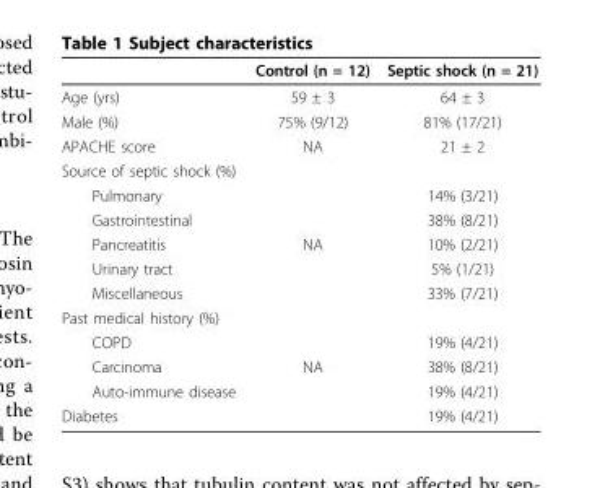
<table><thead><tr><td></td><td>Control (n = 12)</td><td>Septic shock (n = 21)</td></tr></thead><tbody><tr><td>Age (yrs)</td><td>59 ± 3</td><td>64 ± 3</td></tr><tr><td>Male (%)</td><td>75% (9/12)</td><td>81% (17/21)</td></tr><tr><td>APACHE score</td><td>NA</td><td>21 ± 2</td></tr><tr><td colspan="3">Source of septic shock (%)</td></tr><tr><td>Pulmonary</td><td></td><td>14% (3/21)</td></tr><tr><td>Gastrointestinal</td><td></td><td>38% (8/21)</td></tr><tr><td>Pancreatitis</td><td>NA</td><td>10% (2/21)</td></tr><tr><td>Urinary tract</td><td></td><td>5% (1/21)</td></tr><tr><td>Miscellaneous</td><td></td><td>33% (7/21)</td></tr><tr><td colspan="3">Past medical history (%)</td></tr><tr><td>COPD</td><td></td><td>19% (4/21)</td></tr><tr><td>Carcinoma</td><td>NA</td><td>38% (8/21)</td></tr><tr><td>Auto-immune disease</td><td></td><td>19% (4/21)</td></tr><tr><td>Diabetes</td><td></td><td>19% (4/21)</td></tr></tbody></table>